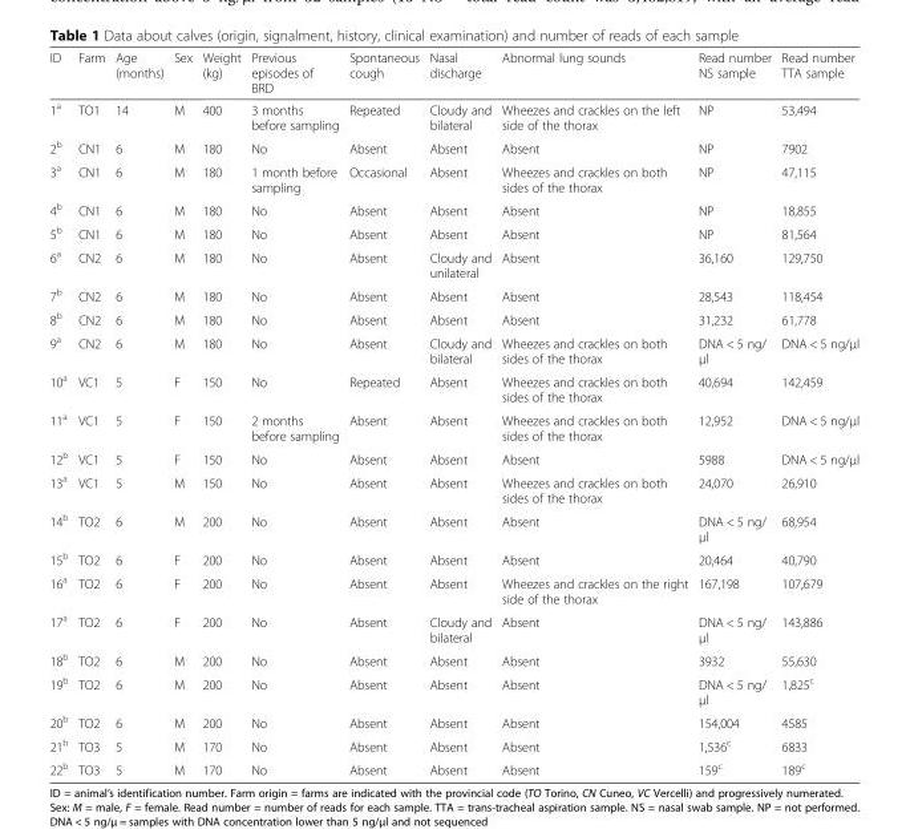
<table><thead><tr><td>ID</td><td>Farm</td><td>Age (months)</td><td>Sex</td><td>Weight (kg)</td><td>Previous episodes of BRD</td><td>Spontaneous cough</td><td>Nasal discharge</td><td>Abnormal lung sounds</td><td>Read number NS sample</td><td>Read number TTA sample</td></tr></thead><tbody><tr><td>1<sup>a</sup></td><td>TO1</td><td>14</td><td>M</td><td>400</td><td>3 months before sampling</td><td>Repeated</td><td>Cloudy and bilateral</td><td>Wheezes and crackles on the left side of the thorax</td><td>NP</td><td>53,494</td></tr><tr><td>2<sup>b</sup></td><td>CN1</td><td>6</td><td>M</td><td>180</td><td>No</td><td>Absent</td><td>Absent</td><td>Absent</td><td>NP</td><td>7902</td></tr><tr><td>3<sup>a</sup></td><td>CN1</td><td>6</td><td>M</td><td>180</td><td>1 month before sampling</td><td>Occasional</td><td>Absent</td><td>Wheezes and crackles on both sides of the thorax</td><td>NP</td><td>47,115</td></tr><tr><td>4<sup>b</sup></td><td>CN1</td><td>6</td><td>M</td><td>180</td><td>No</td><td>Absent</td><td>Absent</td><td>Absent</td><td>NP</td><td>18,855</td></tr><tr><td>5<sup>b</sup></td><td>CN1</td><td>6</td><td>M</td><td>180</td><td>No</td><td>Absent</td><td>Absent</td><td>Absent</td><td>NP</td><td>81,564</td></tr><tr><td>6<sup>a</sup></td><td>CN2</td><td>6</td><td>M</td><td>180</td><td>No</td><td>Absent</td><td>Cloudy and unilateral</td><td>Absent</td><td>36,160</td><td>129,750</td></tr><tr><td>7<sup>b</sup></td><td>CN2</td><td>6</td><td>M</td><td>180</td><td>No</td><td>Absent</td><td>Absent</td><td>Absent</td><td>28,543</td><td>118,454</td></tr><tr><td>8<sup>b</sup></td><td>CN2</td><td>6</td><td>M</td><td>180</td><td>No</td><td>Absent</td><td>Absent</td><td>Absent</td><td>31,232</td><td>61,778</td></tr><tr><td>9<sup>a</sup></td><td>CN2</td><td>6</td><td>M</td><td>180</td><td>No</td><td>Absent</td><td>Cloudy and bilateral</td><td>Wheezes and crackles on both sides of the thorax</td><td>DNA &lt; 5 ng/ μl</td><td>DNA &lt; 5 ng/μl</td></tr><tr><td>10<sup>a</sup></td><td>VC1</td><td>5</td><td>F</td><td>150</td><td>No</td><td>Repeated</td><td>Absent</td><td>Wheezes and crackles on both sides of the thorax</td><td>40,694</td><td>142,459</td></tr><tr><td>11<sup>a</sup></td><td>VC1</td><td>5</td><td>F</td><td>150</td><td>2 months before sampling</td><td>Absent</td><td>Absent</td><td>Wheezes and crackles on both sides of the thorax</td><td>12,952</td><td>DNA &lt; 5 ng/μl</td></tr><tr><td>12<sup>b</sup></td><td>VC1</td><td>5</td><td>F</td><td>150</td><td>No</td><td>Absent</td><td>Absent</td><td>Absent</td><td>5988</td><td>DNA &lt; 5 ng/μl</td></tr><tr><td>13<sup>a</sup></td><td>VC1</td><td>5</td><td>M</td><td>150</td><td>No</td><td>Absent</td><td>Absent</td><td>Wheezes and crackles on both sides of the thorax</td><td>24,070</td><td>26,910</td></tr><tr><td>14<sup>b</sup></td><td>TO2</td><td>6</td><td>M</td><td>200</td><td>No</td><td>Absent</td><td>Absent</td><td>Absent</td><td>DNA &lt; 5 ng/ μl</td><td>68,954</td></tr><tr><td>15<sup>b</sup></td><td>TO2</td><td>6</td><td>F</td><td>200</td><td>No</td><td>Absent</td><td>Absent</td><td>Absent</td><td>20,464</td><td>40,790</td></tr><tr><td>16<sup>a</sup></td><td>TO2</td><td>6</td><td>F</td><td>200</td><td>No</td><td>Absent</td><td>Absent</td><td>Wheezes and crackles on the right side of the thorax</td><td>167,198</td><td>107,679</td></tr><tr><td>17<sup>a</sup></td><td>TO2</td><td>6</td><td>F</td><td>200</td><td>No</td><td>Absent</td><td>Cloudy and bilateral</td><td>Absent</td><td>DNA &lt; 5 ng/ μl</td><td>143,886</td></tr><tr><td>18<sup>b</sup></td><td>TO2</td><td>6</td><td>M</td><td>200</td><td>No</td><td>Absent</td><td>Absent</td><td>Absent</td><td>3932</td><td>55,630</td></tr><tr><td>19<sup>b</sup></td><td>TO2</td><td>6</td><td>M</td><td>200</td><td>No</td><td>Absent</td><td>Absent</td><td>Absent</td><td>DNA &lt; 5 ng/ μl</td><td>1,825<sup>c</sup></td></tr><tr><td>20<sup>b</sup></td><td>TO2</td><td>6</td><td>M</td><td>200</td><td>No</td><td>Absent</td><td>Absent</td><td>Absent</td><td>154,004</td><td>4585</td></tr><tr><td>21<sup>b</sup></td><td>TO3</td><td>5</td><td>M</td><td>170</td><td>No</td><td>Absent</td><td>Absent</td><td>Absent</td><td>1,536<sup>c</sup></td><td>6833</td></tr><tr><td>22<sup>b</sup></td><td>TO3</td><td>5</td><td>M</td><td>170</td><td>No</td><td>Absent</td><td>Absent</td><td>Absent</td><td>159<sup>c</sup></td><td>189<sup>c</sup></td></tr></tbody></table>